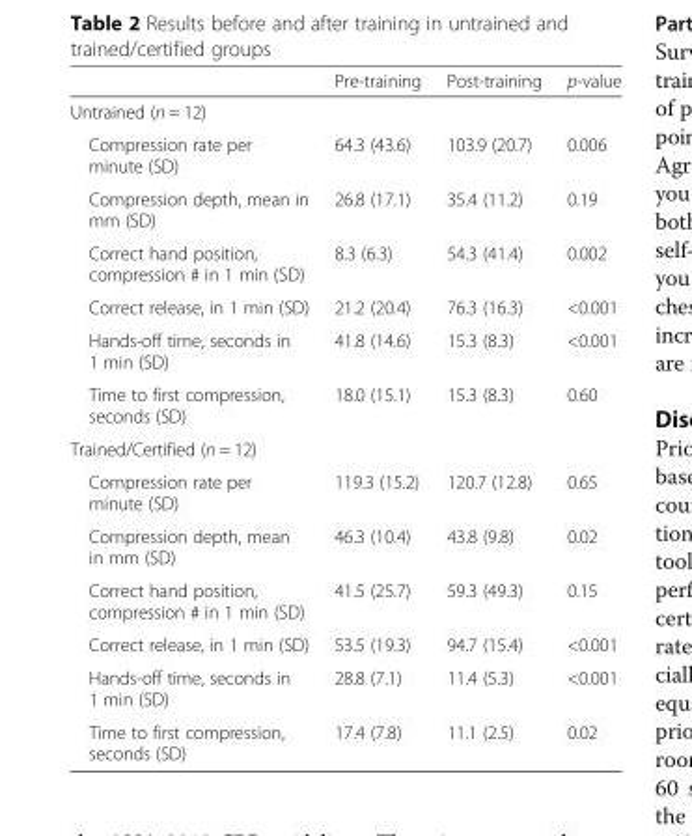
<table><thead><tr><td></td><td>Pre-training</td><td>Post-training</td><td>p-value</td></tr></thead><tbody><tr><td colspan="4">Untrained (n = 12)</td></tr><tr><td>Compression rate per minute (SD)</td><td>64.3 (43.6)</td><td>103.9 (20.7)</td><td>0.006</td></tr><tr><td>Compression depth, mean in mm (SD)</td><td>26.8 (17.1)</td><td>35.4 (11.2)</td><td>0.19</td></tr><tr><td>Correct hand position, compression # in 1 min (SD)</td><td>8.3 (6.3)</td><td>54.3 (41.4)</td><td>0.002</td></tr><tr><td>Correct release, in 1 min (SD)</td><td>21.2 (20.4)</td><td>76.3 (16.3)</td><td>&lt;0.001</td></tr><tr><td>Hands-off time, seconds in 1 min (SD)</td><td>41.8 (14.6)</td><td>15.3 (8.3)</td><td>&lt;0.001</td></tr><tr><td>Time to first compression, seconds (SD)</td><td>18.0 (15.1)</td><td>15.3 (8.3)</td><td>0.60</td></tr><tr><td colspan="4">Trained/Certified (n = 12)</td></tr><tr><td>Compression rate per minute (SD)</td><td>119.3 (15.2)</td><td>120.7 (12.8)</td><td>0.65</td></tr><tr><td>Compression depth, mean in mm (SD)</td><td>46.3 (10.4)</td><td>43.8 (9.8)</td><td>0.02</td></tr><tr><td>Correct hand position, compression # in 1 min (SD)</td><td>41.5 (25.7)</td><td>59.3 (49.3)</td><td>0.15</td></tr><tr><td>Correct release, in 1 min (SD)</td><td>53.5 (19.3)</td><td>94.7 (15.4)</td><td>&lt;0.001</td></tr><tr><td>Hands-off time, seconds in 1 min (SD)</td><td>28.8 (7.1)</td><td>11.4 (5.3)</td><td>&lt;0.001</td></tr><tr><td>Time to first compression, seconds (SD)</td><td>17.4 (7.8)</td><td>11.1 (2.5)</td><td>0.02</td></tr></tbody></table>